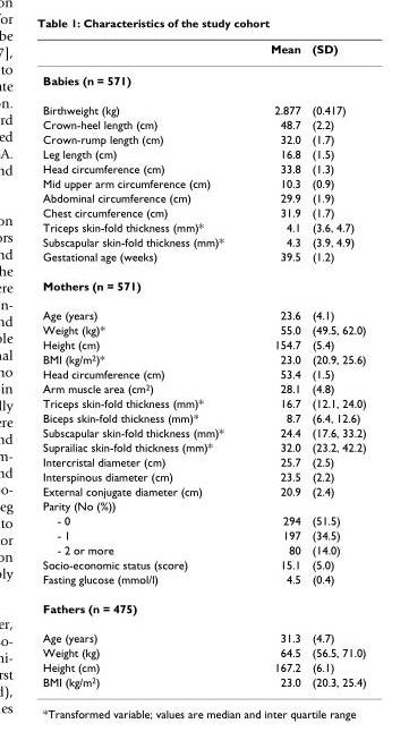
<table><thead><tr><td></td><td>Mean</td><td>(SD)</td></tr></thead><tbody><tr><td colspan="3">Babies (n = 571)</td></tr><tr><td>Birthweight (kg)</td><td>2.877</td><td>(0.417)</td></tr><tr><td>Crown-heel length (cm)</td><td>48.7</td><td>(2.2)</td></tr><tr><td>Crown-rump length (cm)</td><td>32.0</td><td>(1.7)</td></tr><tr><td>Leg length (cm)</td><td>16.8</td><td>(1.5)</td></tr><tr><td>Head circumference (cm)</td><td>33.8</td><td>(1.3)</td></tr><tr><td>Mid upper arm circumference (cm)</td><td>10.3</td><td>(0.9)</td></tr><tr><td>Abdominal circumference (cm)</td><td>29.9</td><td>(1.9)</td></tr><tr><td>Chest circumference (cm)</td><td>31.9</td><td>(1.7)</td></tr><tr><td>Triceps skin-fold thickness (mm)*</td><td>4.1</td><td>(3.6, 4.7)</td></tr><tr><td>Subscapular skin-fold thickness (mm)*</td><td>4.3</td><td>(3.9, 4.9)</td></tr><tr><td>Gestational age (weeks)</td><td>39.5</td><td>(1.2)</td></tr><tr><td colspan="3">Mothers (n = 571)</td></tr><tr><td>Age (years)</td><td>23.6</td><td>(4.1)</td></tr><tr><td>Weight (kg)*</td><td>55.0</td><td>(49.5, 62.0)</td></tr><tr><td>Height (cm)</td><td>154.7</td><td>(5.4)</td></tr><tr><td>BMI (kg/m<sup>2</sup>)*</td><td>23.0</td><td>(20.9, 25.6)</td></tr><tr><td>Head circumference (cm)</td><td>53.4</td><td>(1.5)</td></tr><tr><td>Arm muscle area (cm<sup>2</sup>)</td><td>28.1</td><td>(4.8)</td></tr><tr><td>Triceps skin-fold thickness (mm)*</td><td>16.7</td><td>(12.1, 24.0)</td></tr><tr><td>Biceps skin-fold thickness (mm)*</td><td>8.7</td><td>(6.4, 12.6)</td></tr><tr><td>Subscapular skin-fold thickness (mm)*</td><td>24.4</td><td>(17.6, 33.2)</td></tr><tr><td>Suprailiac skin-fold thickness (mm)*</td><td>32.0</td><td>(23.2, 42.2)</td></tr><tr><td>Intercristal diameter (cm)</td><td>25.7</td><td>(2.5)</td></tr><tr><td>Interspinous diameter (cm)</td><td>23.5</td><td>(2.2)</td></tr><tr><td>External conjugate diameter (cm)</td><td>20.9</td><td>(2.4)</td></tr><tr><td colspan="3">Parity (No (%))</td></tr><tr><td>- 0</td><td>294</td><td>(51.5)</td></tr><tr><td>- 1</td><td>197</td><td>(34.5)</td></tr><tr><td>- 2 or more</td><td>80</td><td>(14.0)</td></tr><tr><td>Socio-economic status (score)</td><td>15.1</td><td>(5.0)</td></tr><tr><td>Fasting glucose (mmol/l)</td><td>4.5</td><td>(0.4)</td></tr><tr><td colspan="3">Fathers (n = 475)</td></tr><tr><td>Age (years)</td><td>31.3</td><td>(4.7)</td></tr><tr><td>Weight (kg)</td><td>64.5</td><td>(56.5, 71.0)</td></tr><tr><td>Height (cm)</td><td>167.2</td><td>(6.1)</td></tr><tr><td>BMI (kg/m<sup>2</sup>)</td><td>23.0</td><td>(20.3, 25.4)</td></tr></tbody></table>